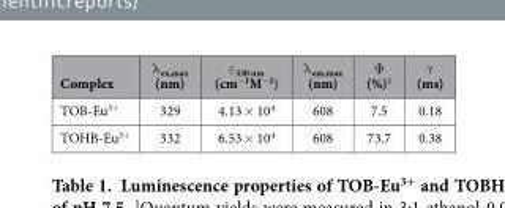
<table><thead><tr><td>Complex</td><td>λ <sub>ex,max</sub> (nm)</td><td>ε <sub>330 nm</sub> (cm<sup>−1</sup>M<sup>−1</sup>)</td><td>λ <sub>em,max</sub> (nm)</td><td>Φ (%)<sup>1</sup></td><td>τ (ms)</td></tr></thead><tbody><tr><td>TOB-Eu<sup>3+</sup></td><td>329</td><td>4.13 × 10<sup>4</sup></td><td>608</td><td>7.5</td><td>0.18</td></tr><tr><td>TOHB-Eu<sup>3+</sup></td><td>332</td><td>6.53 × 10<sup>4</sup></td><td>608</td><td>73.7</td><td>0.38</td></tr></tbody></table>